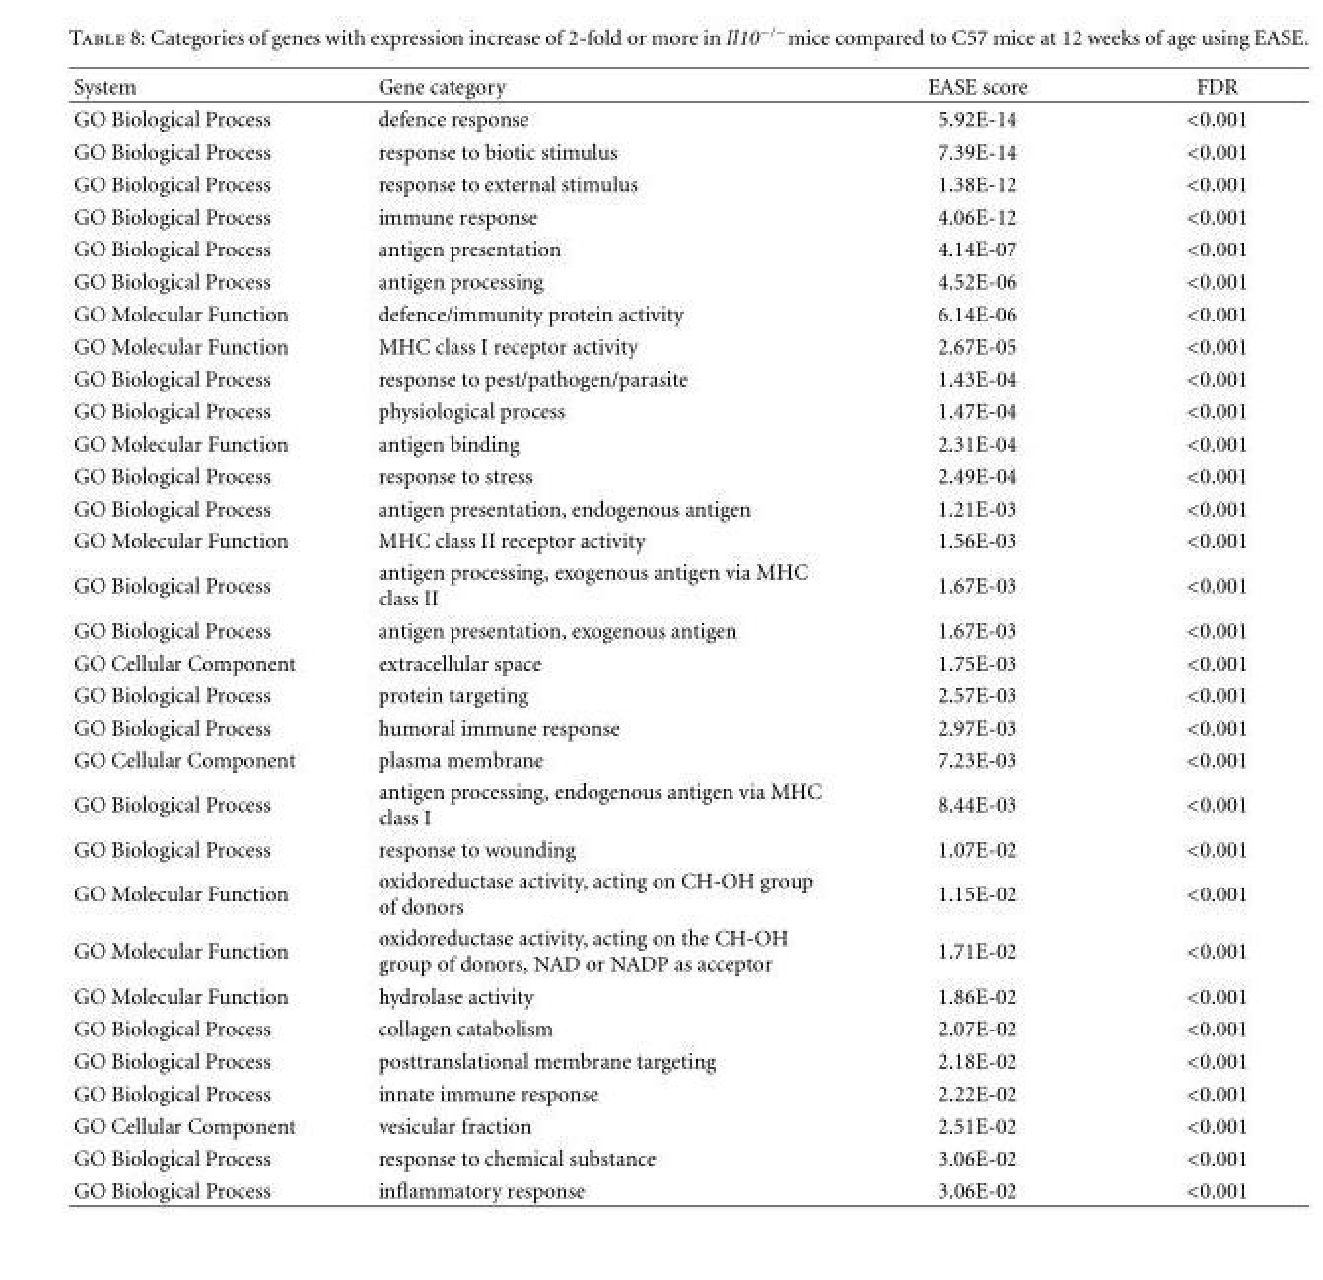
<table><thead><tr><td>System</td><td>Gene category</td><td>EASE score</td><td>FDR</td></tr></thead><tbody><tr><td>GO Biological Process</td><td>defence response</td><td>5.92E-14</td><td>&lt;0.001</td></tr><tr><td>GO Biological Process</td><td>response to biotic stimulus</td><td>7.39E-14</td><td>&lt;0.001</td></tr><tr><td>GO Biological Process</td><td>response to external stimulus</td><td>1.38E-12</td><td>&lt;0.001</td></tr><tr><td>GO Biological Process</td><td>immune response</td><td>4.06E-12</td><td>&lt;0.001</td></tr><tr><td>GO Biological Process</td><td>antigen presentation</td><td>4.14E-07</td><td>&lt;0.001</td></tr><tr><td>GO Biological Process</td><td>antigen processing</td><td>4.52E-06</td><td>&lt;0.001</td></tr><tr><td>GO Molecular Function</td><td>defence/immunity protein activity</td><td>6.14E-06</td><td>&lt;0.001</td></tr><tr><td>GO Molecular Function</td><td>MHC class I receptor activity</td><td>2.67E-05</td><td>&lt;0.001</td></tr><tr><td>GO Biological Process</td><td>response to pest/pathogen/parasite</td><td>1.43E-04</td><td>&lt;0.001</td></tr><tr><td>GO Biological Process</td><td>physiological process</td><td>1.47E-04</td><td>&lt;0.001</td></tr><tr><td>GO Molecular Function</td><td>antigen binding</td><td>2.31E-04</td><td>&lt;0.001</td></tr><tr><td>GO Biological Process</td><td>response to stress</td><td>2.49E-04</td><td>&lt;0.001</td></tr><tr><td>GO Biological Process</td><td>antigen presentation, endogenous antigen</td><td>1.21E-03</td><td>&lt;0.001</td></tr><tr><td>GO Molecular Function</td><td>MHC class II receptor activity</td><td>1.56E-03</td><td>&lt;0.001</td></tr><tr><td>GO Biological Process</td><td>antigen processing, exogenous antigen via MHC class II</td><td>1.67E-03</td><td>&lt;0.001</td></tr><tr><td>GO Biological Process</td><td>antigen presentation, exogenous antigen</td><td>1.67E-03</td><td>&lt;0.001</td></tr><tr><td>GO Cellular Component</td><td>extracellular space</td><td>1.75E-03</td><td>&lt;0.001</td></tr><tr><td>GO Biological Process</td><td>protein targeting</td><td>2.57E-03</td><td>&lt;0.001</td></tr><tr><td>GO Biological Process</td><td>humoral immune response</td><td>2.97E-03</td><td>&lt;0.001</td></tr><tr><td>GO Cellular Component</td><td>plasma membrane</td><td>7.23E-03</td><td>&lt;0.001</td></tr><tr><td>GO Biological Process</td><td>antigen processing, endogenous antigen via MHC class I</td><td>8.44E-03</td><td>&lt;0.001</td></tr><tr><td>GO Biological Process</td><td>response to wounding</td><td>1.07E-02</td><td>&lt;0.001</td></tr><tr><td>GO Molecular Function</td><td>oxidoreductase activity, acting on CH-OH group of donors</td><td>1.15E-02</td><td>&lt;0.001</td></tr><tr><td>GO Molecular Function</td><td>oxidoreductase activity, acting on the CH-OH group of donors, NAD or NADP as acceptor</td><td>1.71E-02</td><td>&lt;0.001</td></tr><tr><td>GO Molecular Function</td><td>hydrolase activity</td><td>1.86E-02</td><td>&lt;0.001</td></tr><tr><td>GO Biological Process</td><td>collagen catabolism</td><td>2.07E-02</td><td>&lt;0.001</td></tr><tr><td>GO Biological Process</td><td>posttranslational membrane targeting</td><td>2.18E-02</td><td>&lt;0.001</td></tr><tr><td>GO Biological Process</td><td>innate immune response</td><td>2.22E-02</td><td>&lt;0.001</td></tr><tr><td>GO Cellular Component</td><td>vesicular fraction</td><td>2.51E-02</td><td>&lt;0.001</td></tr><tr><td>GO Biological Process</td><td>response to chemical substance</td><td>3.06E-02</td><td>&lt;0.001</td></tr><tr><td>GO Biological Process</td><td>inflammatory response</td><td>3.06E-02</td><td>&lt;0.001</td></tr></tbody></table>